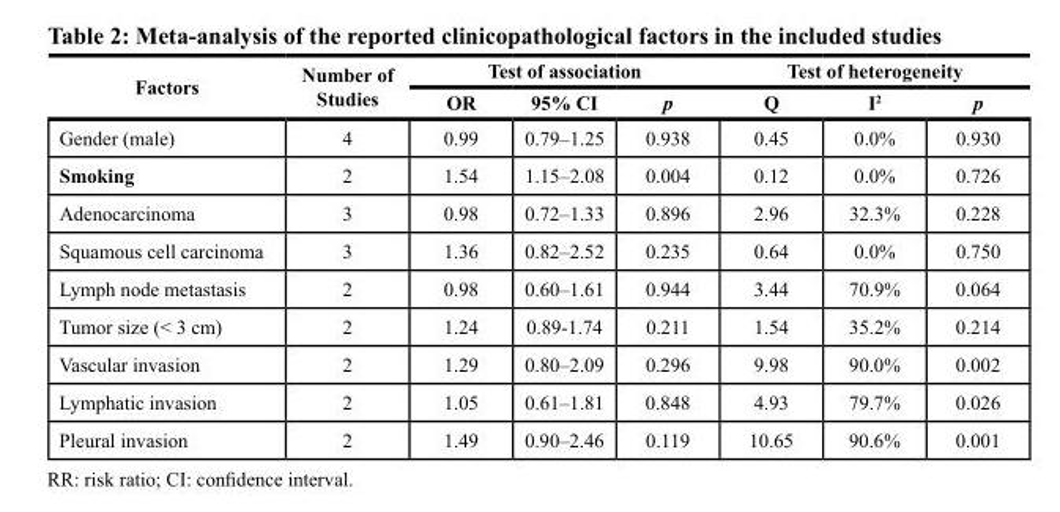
<table><thead><tr><td rowspan="2">Factors</td><td rowspan="2">Number of studies</td><td colspan="3">Test of association</td><td colspan="3">Test of heterogeneity</td></tr><tr><td>OR</td><td>95% CI</td><td>p</td><td>Q</td><td>I<sup>2</sup></td><td>p</td></tr></thead><tbody><tr><td>Gender (male)</td><td>4</td><td>0.99</td><td>0.79–1.25</td><td>0.938</td><td>0.45</td><td>0.0%</td><td>0.930</td></tr><tr><td>smoking</td><td>2</td><td>1.54</td><td>1.15–2.08</td><td>0.004</td><td>0.12</td><td>0.0%</td><td>0.726</td></tr><tr><td>Adenocarcinoma</td><td>3</td><td>0.98</td><td>0.72–1.33</td><td>0.896</td><td>2.96</td><td>32.3%</td><td>0.228</td></tr><tr><td>Squamous cell carcinoma</td><td>3</td><td>1.36</td><td>0.82–2.52</td><td>0.235</td><td>0.64</td><td>0.0%</td><td>0.750</td></tr><tr><td>Lymph node metastasis</td><td>2</td><td>0.98</td><td>0.60–1.61</td><td>0.944</td><td>3.44</td><td>70.9%</td><td>0.064</td></tr><tr><td>Tumor size (&lt; 3 cm)</td><td>2</td><td>1.24</td><td>0.89-1.74</td><td>0.211</td><td>1.54</td><td>35.2%</td><td>0.214</td></tr><tr><td>Vascular invasion</td><td>2</td><td>1.29</td><td>0.80–2.09</td><td>0.296</td><td>9.98</td><td>90.0%</td><td>0.002</td></tr><tr><td>Lymphatic invasion</td><td>2</td><td>1.05</td><td>0.61–1.81</td><td>0.848</td><td>4.93</td><td>79.7%</td><td>0.026</td></tr><tr><td>Pleural invasion</td><td>2</td><td>1.49</td><td>0.90–2.46</td><td>0.119</td><td>10.65</td><td>90.6%</td><td>0.001</td></tr></tbody></table>